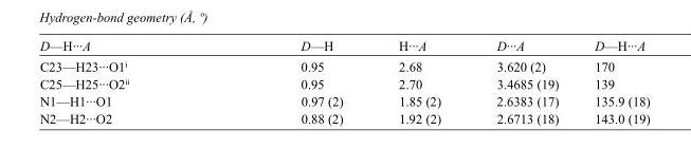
<table><tbody><tr><td>D—H···A</td><td>D—H</td><td>H···A</td><td>D···A</td><td>D—H···A</td></tr><tr><td>C23—H23···O1<sup>i</sup></td><td>0.95</td><td>2.68</td><td>3.620 (2)</td><td>170</td></tr><tr><td>C25—H25···O2<sup>ii</sup></td><td>0.95</td><td>2.70</td><td>3.4685 (19)</td><td>139</td></tr><tr><td>N1—H1···O1</td><td>0.97 (2)</td><td>1.85 (2)</td><td>2.6383 (17)</td><td>135.9 (18)</td></tr><tr><td>N2—H2···O2</td><td>0.88 (2)</td><td>1.92 (2)</td><td>2.6713 (18)</td><td>143.0 (19)</td></tr></tbody></table>